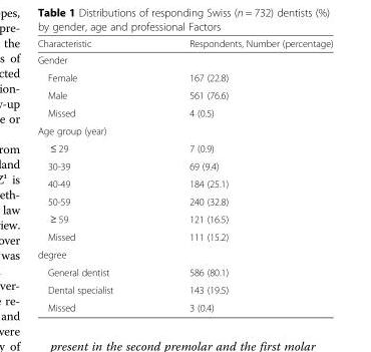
<table><thead><tr><td>Characteristic</td><td>Respondents, Number (percentage)</td></tr></thead><tbody><tr><td colspan="2">Gender</td></tr><tr><td>Female</td><td>167 (22.8)</td></tr><tr><td>Male</td><td>561 (76.6)</td></tr><tr><td>Missed</td><td>4 (0.5)</td></tr><tr><td colspan="2">Age group (year)</td></tr><tr><td>≤ 29</td><td>7 (0.9)</td></tr><tr><td>30-39</td><td>69 (9.4)</td></tr><tr><td>40-49</td><td>184 (25.1)</td></tr><tr><td>50-59</td><td>240 (32.8)</td></tr><tr><td>≥ 59</td><td>121 (16.5)</td></tr><tr><td>Missed</td><td>111 (15.2)</td></tr><tr><td colspan="2">degree</td></tr><tr><td>General dentist</td><td>586 (80.1)</td></tr><tr><td>Dental specialist</td><td>143 (19.5)</td></tr><tr><td>Missed</td><td>3 (0.4)</td></tr></tbody></table>